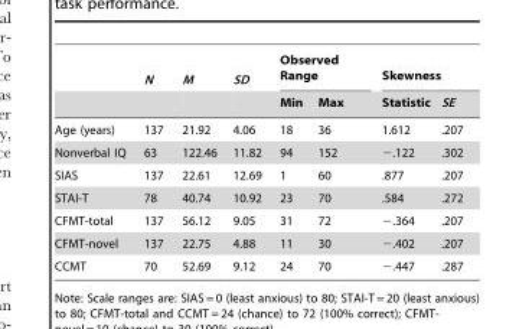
<table><thead><tr><td rowspan="2"></td><td rowspan="2">N</td><td rowspan="2">M</td><td rowspan="2">SD</td><td colspan="2">Observed Range</td><td colspan="2">Skewness</td></tr><tr><td>Min</td><td>Max</td><td>Statistic</td><td>SE</td></tr></thead><tbody><tr><td>Age (years)</td><td>137</td><td>21.92</td><td>4.06</td><td>18</td><td>36</td><td>1.612</td><td>.207</td></tr><tr><td>Nonverbal IQ</td><td>63</td><td>122.46</td><td>11.82</td><td>94</td><td>152</td><td>−.122</td><td>.302</td></tr><tr><td>SIAS</td><td>137</td><td>22.61</td><td>12.69</td><td>1</td><td>60</td><td>.877</td><td>.207</td></tr><tr><td>STAI-T</td><td>78</td><td>40.74</td><td>10.92</td><td>23</td><td>70</td><td>.584</td><td>.272</td></tr><tr><td>CFMT-total</td><td>137</td><td>56.12</td><td>9.05</td><td>31</td><td>72</td><td>−.364</td><td>.207</td></tr><tr><td>CFMT-novel</td><td>137</td><td>22.75</td><td>4.88</td><td>11</td><td>30</td><td>−.402</td><td>.207</td></tr><tr><td>CCMT</td><td>70</td><td>52.69</td><td>9.12</td><td>24</td><td>70</td><td>−.447</td><td>.287</td></tr></tbody></table>